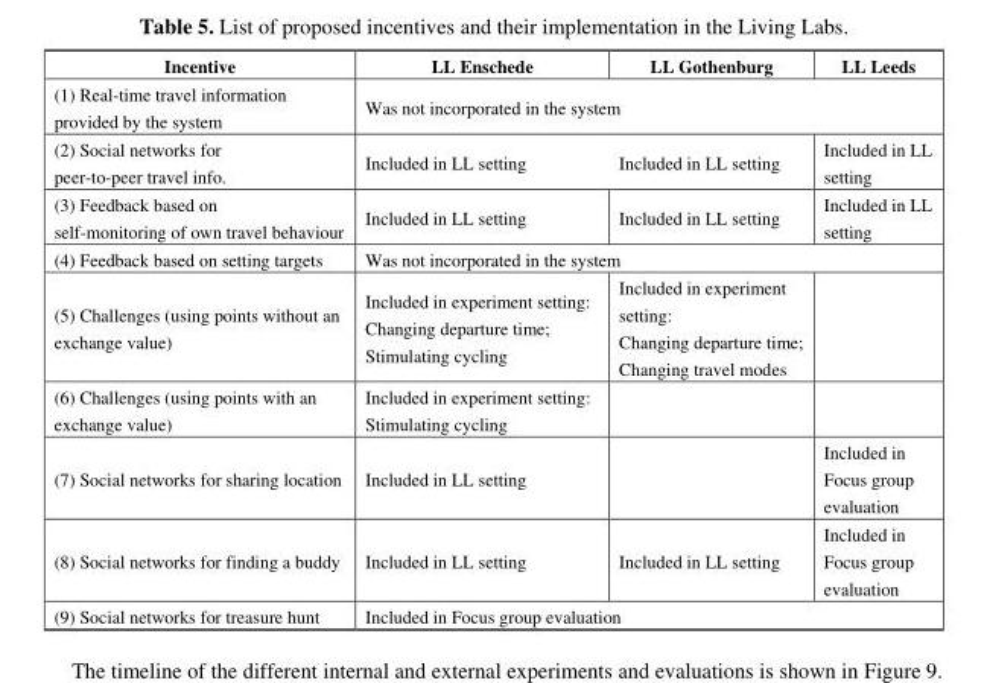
<table><thead><tr><td>Incentive</td><td>LL Enschede</td><td>LL Gothenburg</td><td>LL Leeds</td></tr></thead><tbody><tr><td>(1) Real-time travel information provided by the system</td><td colspan="3">Was not incorporated in the system</td></tr><tr><td>(2) Social networks for peer-to-peer travel info.</td><td>Included in LL setting</td><td>Included in LL setting</td><td>Included in LL setting</td></tr><tr><td>(3) Feedback based on self-monitoring of own travel behaviour</td><td>Included in LL setting</td><td>Included in LL setting</td><td>Included in LL setting</td></tr><tr><td>(4) Feedback based on setting targets</td><td colspan="3">Was not incorporated in the system</td></tr><tr><td>(5) Challenges (using points without an exchange value)</td><td>Included in experiment setting: Changing departure time; Stimulating cycling</td><td>Included in experiment setting: Changing departure time; Changing travel modes</td><td></td></tr><tr><td>(6) Challenges (using points with an exchange value)</td><td>Included in experiment setting: Stimulating cycling</td><td></td><td></td></tr><tr><td>(7) Social networks for sharing location</td><td>Included in LL setting</td><td></td><td>Included in Focus group evaluation</td></tr><tr><td>(8) Social networks for finding a buddy</td><td>Included in LL setting</td><td>Included in LL setting</td><td>Included in Focus group evaluation</td></tr><tr><td>(9) Social networks for treasure hunt</td><td colspan="3">Included in Focus group evaluation</td></tr></tbody></table>